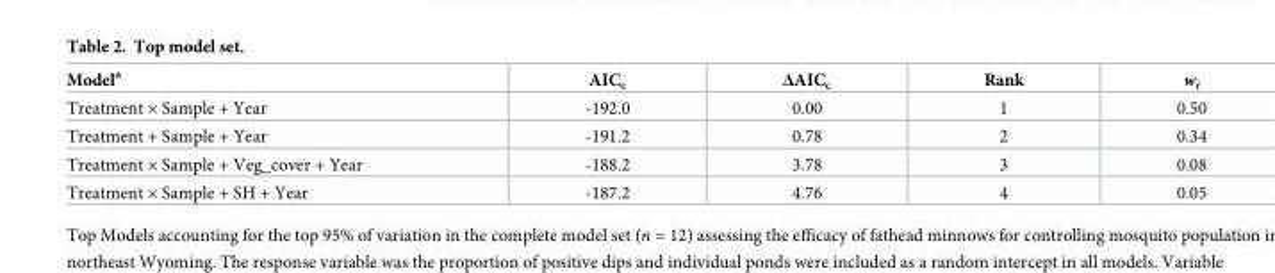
<table><thead><tr><td>Model<sup>a</sup></td><td>AIC<sub>c</sub></td><td>ΔAIC<sub>c</sub></td><td>Rank</td><td>w<sub>i</sub></td></tr></thead><tbody><tr><td>Treatment × Sample + Year</td><td>-192.0</td><td>0.00</td><td>1</td><td>0.50</td></tr><tr><td>Treatment + Sample + Year</td><td>-191.2</td><td>0.78</td><td>2</td><td>0.34</td></tr><tr><td>Treatment × Sample + Veg_cover + Year</td><td>-188.2</td><td>3.78</td><td>3</td><td>0.08</td></tr><tr><td>Treatment × Sample + SH + Year</td><td>-187.2</td><td>4.76</td><td>4</td><td>0.05</td></tr></tbody></table>